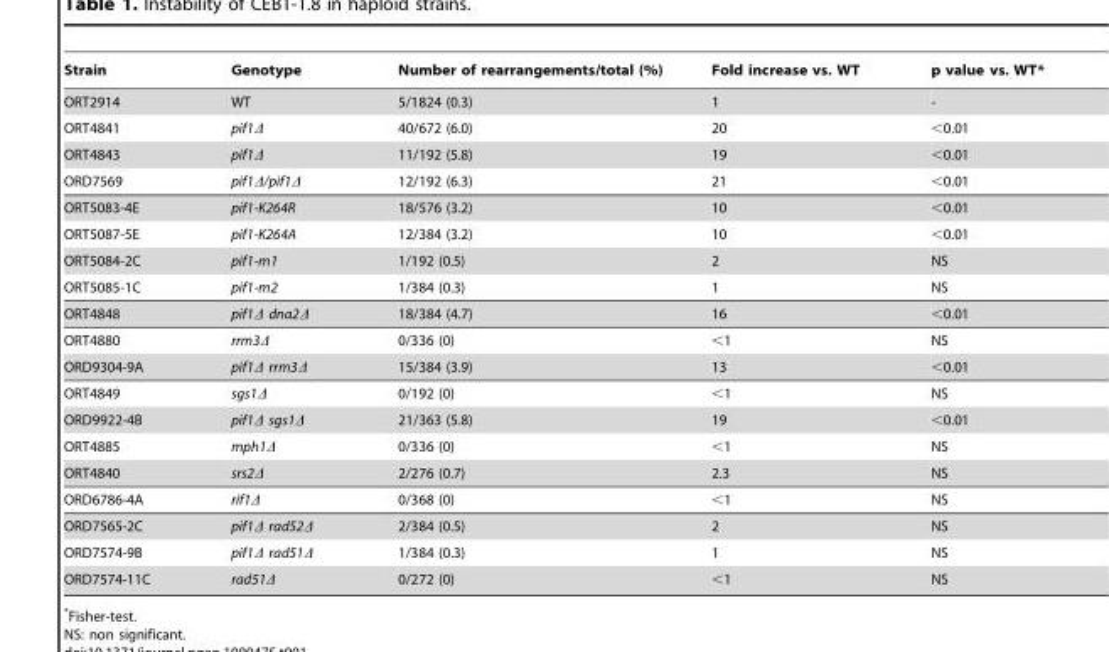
<table><thead><tr><td>Strain</td><td>Genotype</td><td>Number of rearrangements/total (%)</td><td>Fold increase vs. WT</td><td>p value vs. WT*</td></tr></thead><tbody><tr><td>ORT2914</td><td>WT</td><td>5/1824 (0.3)</td><td>1</td><td>-</td></tr><tr><td>ORT4841</td><td>pif1Δ</td><td>40/672 (6.0)</td><td>20</td><td>&lt;0.01</td></tr><tr><td>ORT4843</td><td>pif1Δ</td><td>11/192 (5.8)</td><td>19</td><td>&lt;0.01</td></tr><tr><td>ORD7569</td><td>pif1Δ/pif1Δ</td><td>12/192 (6.3)</td><td>21</td><td>&lt;0.01</td></tr><tr><td>ORT5083-4E</td><td>pif1-K264R</td><td>18/576 (3.2)</td><td>10</td><td>&lt;0.01</td></tr><tr><td>ORT5087-5E</td><td>pif1-K264A</td><td>12/384 (3.2)</td><td>10</td><td>&lt;0.01</td></tr><tr><td>ORT5084-2C</td><td>pif1-m1</td><td>1/192 (0.5)</td><td>2</td><td>NS</td></tr><tr><td>ORT5085-1C</td><td>pif1-m2</td><td>1/384 (0.3)</td><td>1</td><td>NS</td></tr><tr><td>ORT4848</td><td>pif1Δ dna2Δ</td><td>18/384 (4.7)</td><td>16</td><td>&lt;0.01</td></tr><tr><td>ORT4880</td><td>rrm3Δ</td><td>0/336 (0)</td><td>&lt;1</td><td>NS</td></tr><tr><td>ORD9304-9A</td><td>pif1Δ rrm3Δ</td><td>15/384 (3.9)</td><td>13</td><td>&lt;0.01</td></tr><tr><td>ORT4849</td><td>sgs1Δ</td><td>0/192 (0)</td><td>&lt;1</td><td>NS</td></tr><tr><td>ORD9922-4B</td><td>pif1Δ sgs1Δ</td><td>21/363 (5.8)</td><td>19</td><td>&lt;0.01</td></tr><tr><td>ORT4885</td><td>mph1Δ</td><td>0/336 (0)</td><td>&lt;1</td><td>NS</td></tr><tr><td>ORT4840</td><td>srs2Δ</td><td>2/276 (0.7)</td><td>2.3</td><td>NS</td></tr><tr><td>ORD6786-4A</td><td>rif1Δ</td><td>0/368 (0)</td><td>&lt;1</td><td>NS</td></tr><tr><td>ORD7565-2C</td><td>pif1Δ rad52Δ</td><td>2/384 (0.5)</td><td>2</td><td>NS</td></tr><tr><td>ORD7574-9B</td><td>pif1Δ rad51Δ</td><td>1/384 (0.3)</td><td>1</td><td>NS</td></tr><tr><td>ORD7574-11C</td><td>rad51Δ</td><td>0/272 (0)</td><td>&lt;1</td><td>NS</td></tr></tbody></table>